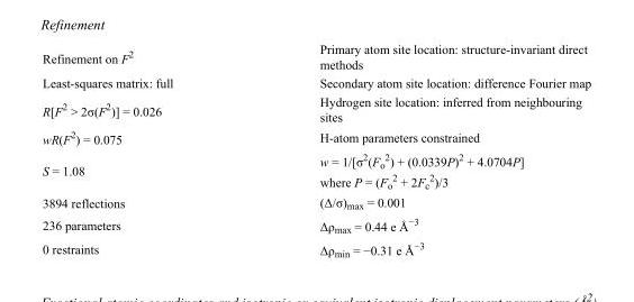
<table><tbody><tr><td>Refinement on F<sup>2</sup></td><td>Primary atom site location: structure-invariant direct methods</td></tr><tr><td>Least-squares matrix: full</td><td>Secondary atom site location: difference Fourier map</td></tr><tr><td>R[F<sup>2</sup> &gt; 2σ(F<sup>2</sup>)] = 0.026</td><td>Hydrogen site location: inferred from neighbouring sites</td></tr><tr><td>wR(F<sup>2</sup>) = 0.075</td><td>H-atom parameters constrained</td></tr><tr><td>S = 1.08</td><td>w = 1/[σ<sup>2</sup>(F<sub>o</sub> <sup>2</sup>) + (0.0339P)<sup>2</sup> + 4.0704P] where P = (F<sub>o</sub> <sup>2</sup> + 2F<sub>c</sub> <sup>2</sup>)/3</td></tr><tr><td>3894 reflections</td><td>(Δ/σ)<sub>max</sub> = 0.001</td></tr><tr><td>236 parameters</td><td>Δρ<sub>max</sub> = 0.44 e Å<sup>−3</sup></td></tr><tr><td>0 restraints</td><td>Δρ<sub>min</sub> = −0.31 e Å<sup>−3</sup></td></tr></tbody></table>